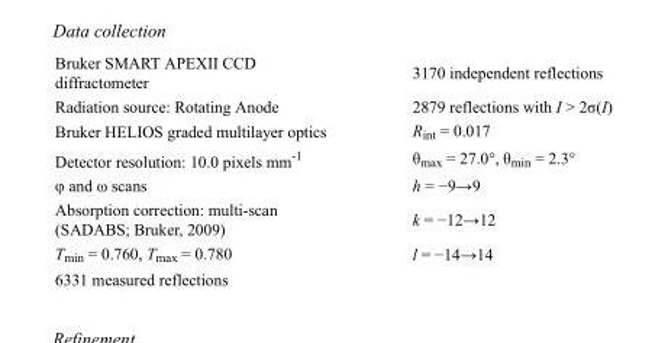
<table><tbody><tr><td>Bruker SMART APEXII CCD diffractometer</td><td>3170 independent reflections</td></tr><tr><td>Radiation source: Rotating Anode</td><td>2879 reflections with I &gt; 2σ(I)</td></tr><tr><td>Bruker HELIOS graded multilayer optics</td><td>R<sub>int</sub> = 0.017</td></tr><tr><td>Detector resolution: 10.0 pixels mm<sup>-1</sup></td><td>θ<sub>max</sub> = 27.0°, θ<sub>min</sub> = 2.3°</td></tr><tr><td>φ and ω scans</td><td>h = −9→9</td></tr><tr><td>Absorption correction: multi-scan (SADABS; Bruker, 2009)</td><td>k = −12→12</td></tr><tr><td>T<sub>min</sub> = 0.760, T<sub>max</sub> = 0.780</td><td>l = −14→14</td></tr><tr><td>6331 measured reflections</td><td></td></tr></tbody></table>